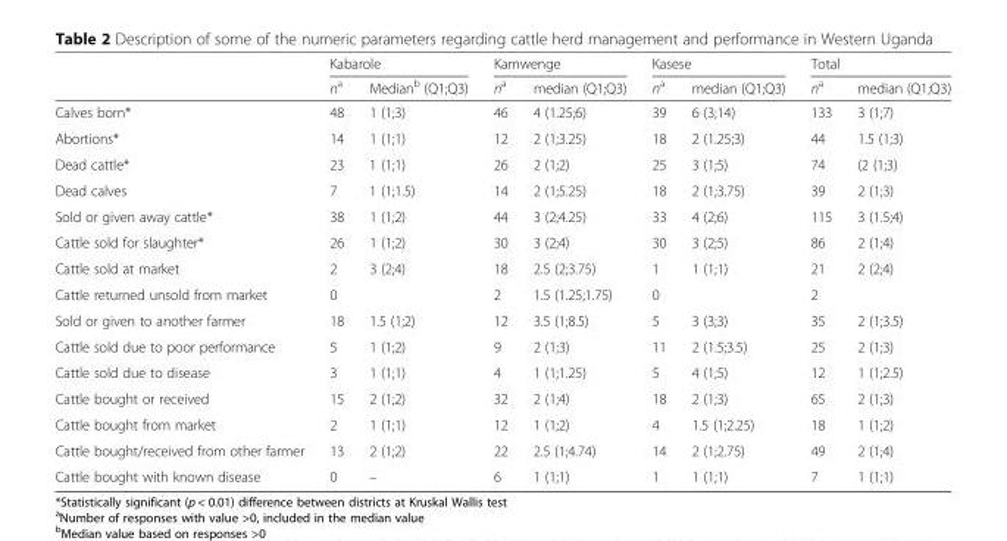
<table><thead><tr><td rowspan="2"></td><td colspan="2">Kabarole</td><td colspan="2">Kamwenge</td><td colspan="2">Kasese</td><td colspan="2">Total</td></tr><tr><td>n<sup>a</sup></td><td>Median<sup>b</sup> (Q1;Q3)</td><td>n<sup>a</sup></td><td>median (Q1;Q3)</td><td>n<sup>a</sup></td><td>median (Q1;Q3)</td><td>n<sup>a</sup></td><td>median (Q1;Q3)</td></tr></thead><tbody><tr><td>Calves born*</td><td>48</td><td>1 (1;3)</td><td>46</td><td>4 (1.25;6)</td><td>39</td><td>6 (3;14)</td><td>133</td><td>3 (1;7)</td></tr><tr><td>Abortions*</td><td>14</td><td>1 (1;1)</td><td>12</td><td>2 (1;3.25)</td><td>18</td><td>2 (1.25;3)</td><td>44</td><td>1.5 (1;3)</td></tr><tr><td>Dead cattle*</td><td>23</td><td>1 (1;1)</td><td>26</td><td>2 (1;2)</td><td>25</td><td>3 (1;5)</td><td>74</td><td>(2 (1;3)</td></tr><tr><td>Dead calves</td><td>7</td><td>1 (1;1.5)</td><td>14</td><td>2 (1;5.25)</td><td>18</td><td>2 (1;3.75)</td><td>39</td><td>2 (1;3)</td></tr><tr><td>Sold or given away cattle*</td><td>38</td><td>1 (1;2)</td><td>44</td><td>3 (2;4.25)</td><td>33</td><td>4 (2;6)</td><td>115</td><td>3 (1.5;4)</td></tr><tr><td>Cattle sold for slaughter*</td><td>26</td><td>1 (1;2)</td><td>30</td><td>3 (2;4)</td><td>30</td><td>3 (2;5)</td><td>86</td><td>2 (1;4)</td></tr><tr><td>Cattle sold at market</td><td>2</td><td>3 (2;4)</td><td>18</td><td>2.5 (2;3.75)</td><td>1</td><td>1 (1;1)</td><td>21</td><td>2 (2;4)</td></tr><tr><td>Cattle returned unsold from market</td><td>0</td><td></td><td>2</td><td>1.5 (1.25;1.75)</td><td>0</td><td></td><td>2</td><td></td></tr><tr><td>Sold or given to another farmer</td><td>18</td><td>1.5 (1;2)</td><td>12</td><td>3.5 (1;8.5)</td><td>5</td><td>3 (3;3)</td><td>35</td><td>2 (1;3.5)</td></tr><tr><td>Cattle sold due to poor performance</td><td>5</td><td>1 (1;2)</td><td>9</td><td>2 (1;3)</td><td>11</td><td>2 (1.5;3.5)</td><td>25</td><td>2 (1;3)</td></tr><tr><td>Cattle sold due to disease</td><td>3</td><td>1 (1;1)</td><td>4</td><td>1 (1;1.25)</td><td>5</td><td>4 (1;5)</td><td>12</td><td>1 (1;2.5)</td></tr><tr><td>Cattle bought or received</td><td>15</td><td>2 (1;2)</td><td>32</td><td>2 (1;4)</td><td>18</td><td>2 (1;3)</td><td>65</td><td>2 (1;3)</td></tr><tr><td>Cattle bought from market</td><td>2</td><td>1 (1;1)</td><td>12</td><td>1 (1;2)</td><td>4</td><td>1.5 (1;2.25)</td><td>18</td><td>1 (1;2)</td></tr><tr><td>Cattle bought/received from other farmer</td><td>13</td><td>2 (1;2)</td><td>22</td><td>2.5 (1;4.74)</td><td>14</td><td>2 (1;2.75)</td><td>49</td><td>2 (1;4)</td></tr><tr><td>Cattle bought with known disease</td><td>0</td><td>–</td><td>6</td><td>1 (1;1)</td><td>1</td><td>1 (1;1)</td><td>7</td><td>1 (1;1)</td></tr></tbody></table>